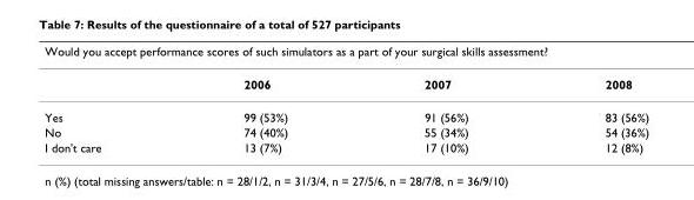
<table><thead><tr><td colspan="4">Would you accept performance scores of such simulators as a part of your surgical skills assessment?</td></tr><tr><td></td><td>2006</td><td>2007</td><td>2008</td></tr></thead><tbody><tr><td>Yes</td><td>99 (53%)</td><td>91 (56%)</td><td>83 (56%)</td></tr><tr><td>No</td><td>74 (40%)</td><td>55 (34%)</td><td>54 (36%)</td></tr><tr><td>I don&#x27;t care</td><td>13 (7%)</td><td>17 (10%)</td><td>12 (8%)</td></tr></tbody></table>